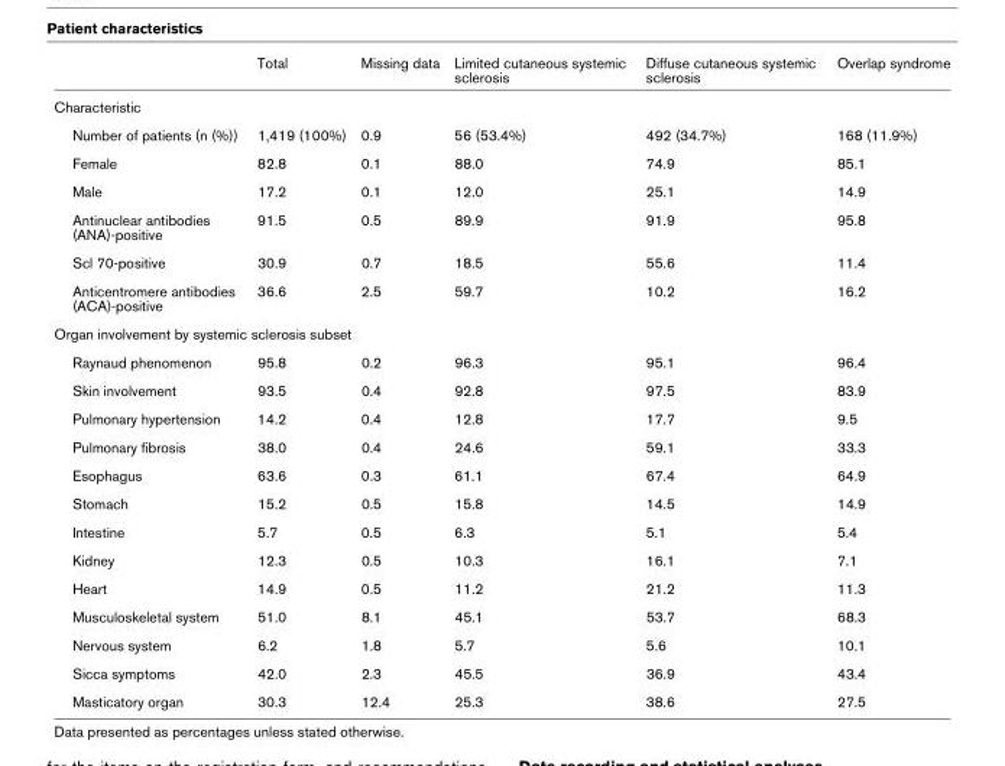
<table><thead><tr><td></td><td>Total</td><td>Missing data</td><td>Limited cutaneous systemic sclerosis</td><td>Diffuse cutaneous systemic sclerosis</td><td>Overlap syndrome</td></tr></thead><tbody><tr><td colspan="6">Characteristic</td></tr><tr><td>Number of patients (n (%))</td><td>1,419 (100%)</td><td>0.9</td><td>56 (53.4%)</td><td>492 (34.7%)</td><td>168 (11.9%)</td></tr><tr><td>Female</td><td>82.8</td><td>0.1</td><td>88.0</td><td>74.9</td><td>85.1</td></tr><tr><td>Male</td><td>17.2</td><td>0.1</td><td>12.0</td><td>25.1</td><td>14.9</td></tr><tr><td>Antinuclear antibodies (ANA)-positive</td><td>91.5</td><td>0.5</td><td>89.9</td><td>91.9</td><td>95.8</td></tr><tr><td>Scl 70-positive</td><td>30.9</td><td>0.7</td><td>18.5</td><td>55.6</td><td>11.4</td></tr><tr><td>Anticentromere antibodies (ACA)-positive</td><td>36.6</td><td>2.5</td><td>59.7</td><td>10.2</td><td>16.2</td></tr><tr><td colspan="6">Organ involvement by systemic sclerosis subset</td></tr><tr><td>Raynaud phenomenon</td><td>95.8</td><td>0.2</td><td>96.3</td><td>95.1</td><td>96.4</td></tr><tr><td>Skin involvement</td><td>93.5</td><td>0.4</td><td>92.8</td><td>97.5</td><td>83.9</td></tr><tr><td>Pulmonary hypertension</td><td>14.2</td><td>0.4</td><td>12.8</td><td>17.7</td><td>9.5</td></tr><tr><td>Pulmonary fibrosis</td><td>38.0</td><td>0.4</td><td>24.6</td><td>59.1</td><td>33.3</td></tr><tr><td>Esophagus</td><td>63.6</td><td>0.3</td><td>61.1</td><td>67.4</td><td>64.9</td></tr><tr><td>Stomach</td><td>15.2</td><td>0.5</td><td>15.8</td><td>14.5</td><td>14.9</td></tr><tr><td>Intestine</td><td>5.7</td><td>0.5</td><td>6.3</td><td>5.1</td><td>5.4</td></tr><tr><td>Kidney</td><td>12.3</td><td>0.5</td><td>10.3</td><td>16.1</td><td>7.1</td></tr><tr><td>Heart</td><td>14.9</td><td>0.5</td><td>11.2</td><td>21.2</td><td>11.3</td></tr><tr><td>Musculoskeletal system</td><td>51.0</td><td>8.1</td><td>45.1</td><td>53.7</td><td>68.3</td></tr><tr><td>Nervous system</td><td>6.2</td><td>1.8</td><td>5.7</td><td>5.6</td><td>10.1</td></tr><tr><td>Sicca symptoms</td><td>42.0</td><td>2.3</td><td>45.5</td><td>36.9</td><td>43.4</td></tr><tr><td>Masticatory organ</td><td>30.3</td><td>12.4</td><td>25.3</td><td>38.6</td><td>27.5</td></tr></tbody></table>